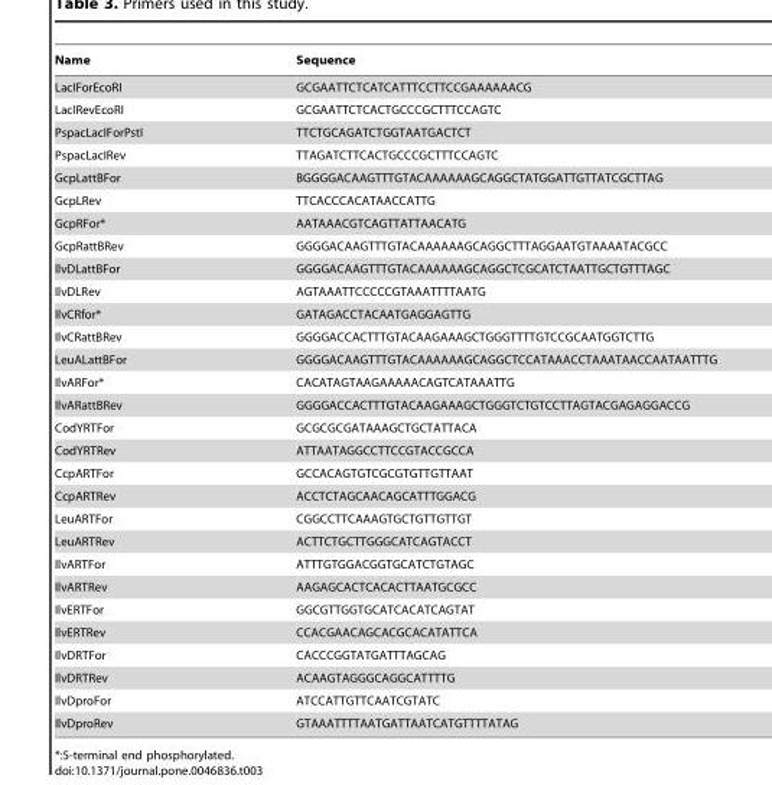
<table><thead><tr><td>Name</td><td>Sequence</td></tr></thead><tbody><tr><td>LacIForEcoRI</td><td>GCGAATTCTCATCATTTCCTTCCGAAAAAACG</td></tr><tr><td>LacIRevEcoRI</td><td>GCGAATTCTCACTGCCCGCTTTCCAGTC</td></tr><tr><td>PspacLacIForPstI</td><td>TTCTGCAGATCTGGTAATGACTCT</td></tr><tr><td>PspacLacIRev</td><td>TTAGATCTTCACTGCCCGCTTTCCAGTC</td></tr><tr><td>GcpLattBFor</td><td>BGGGGACAAGTTTGTACAAAAAAGCAGGCTATGGATTGTTATCGCTTAG</td></tr><tr><td>GcpLRev</td><td>TTCACCCACATAACCATTG</td></tr><tr><td>GcpRFor*</td><td>AATAAACGTCAGTTATTAACATG</td></tr><tr><td>GcpRattBRev</td><td>GGGGACAAGTTTGTACAAAAAAGCAGGCTTTAGGAATGTAAAATACGCC</td></tr><tr><td>IlvDLattBFor</td><td>GGGGACAAGTTTGTACAAAAAAGCAGGCTCGCATCTAATTGCTGTTTAGC</td></tr><tr><td>IlvDLRev</td><td>AGTAAATTCCCCCGTAAATTTTAATG</td></tr><tr><td>IlvCRfor*</td><td>GATAGACCTACAATGAGGAGTTG</td></tr><tr><td>IlvCRattBRev</td><td>GGGGACCACTTTGTACAAGAAAGCTGGGTTTTGTCCGCAATGGTCTTG</td></tr><tr><td>LeuALattBFor</td><td>GGGGACAAGTTTGTACAAAAAAGCAGGCTCCATAAACCTAAATAACCAATAATTTG</td></tr><tr><td>IlvARFor*</td><td>CACATAGTAAGAAAAACAGTCATAAATTG</td></tr><tr><td>IlvARattBRev</td><td>GGGGACCACTTTGTACAAGAAAGCTGGGTCTGTCCTTAGTACGAGAGGACCG</td></tr><tr><td>CodYRTFor</td><td>GCGCGCGATAAAGCTGCTATTACA</td></tr><tr><td>CodYRTRev</td><td>ATTAATAGGCCTTCCGTACCGCCA</td></tr><tr><td>CcpARTFor</td><td>GCCACAGTGTCGCGTGTTGTTAAT</td></tr><tr><td>CcpARTRev</td><td>ACCTCTAGCAACAGCATTTGGACG</td></tr><tr><td>LeuARTFor</td><td>CGGCCTTCAAAGTGCTGTTGTTGT</td></tr><tr><td>LeuARTRev</td><td>ACTTCTGCTTGGGCATCAGTACCT</td></tr><tr><td>IlvARTFor</td><td>ATTTGTGGACGGTGCATCTGTAGC</td></tr><tr><td>IlvARTRev</td><td>AAGAGCACTCACACTTAATGCGCC</td></tr><tr><td>IlvERTFor</td><td>GGCGTTGGTGCATCACATCAGTAT</td></tr><tr><td>IlvERTRev</td><td>CCACGAACAGCACGCACATATTCA</td></tr><tr><td>IlvDRTFor</td><td>CACCCGGTATGATTTAGCAG</td></tr><tr><td>IlvDRTRev</td><td>ACAAGTAGGGCAGGCATTTTG</td></tr><tr><td>IlvDproFor</td><td>ATCCATTGTTCAATCGTATC</td></tr><tr><td>IlvDproRev</td><td>GTAAATTTTAATGATTAATCATGTTTTATAG</td></tr></tbody></table>